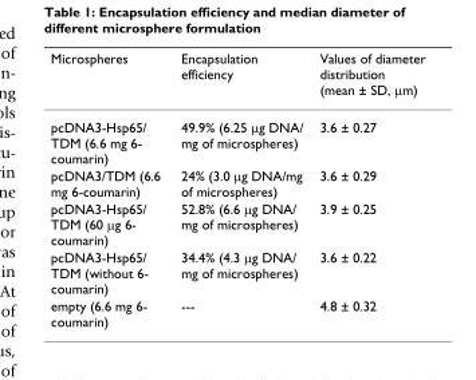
<table><thead><tr><td>Microspheres</td><td>Encapsulation efficiency</td><td>Values of diameter distribution (mean ± SD, µm)</td></tr></thead><tbody><tr><td>pcDNA3-Hsp65/ TDM (6.6 mg 6- coumarin)</td><td>49.9% (6.25 µg DNA/ mg of microspheres)</td><td>3.6 ± 0.27</td></tr><tr><td>pcDNA3/TDM (6.6 mg 6-coumarin)</td><td>24% (3.0 µg DNA/mg of microspheres)</td><td>3.6 ± 0.29</td></tr><tr><td>pcDNA3-Hsp65/ TDM (60 µg 6- coumarin)</td><td>52.8% (6.6 µg DNA/ mg of microspheres)</td><td>3.9 ± 0.25</td></tr><tr><td>pcDNA3-Hsp65/ TDM (without 6- coumarin)</td><td>34.4% (4.3 µg DNA/ mg of microspheres)</td><td>3.6 ± 0.22</td></tr><tr><td>empty (6.6 mg 6- coumarin)</td><td>---</td><td>4.8 ± 0.32</td></tr></tbody></table>